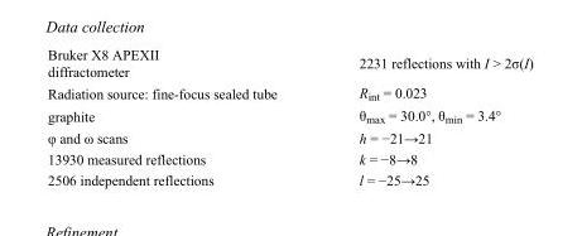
<table><tbody><tr><td>Bruker X8 APEXII diffractometer</td><td>2231 reflections with I &gt; 2σ(I)</td></tr><tr><td>Radiation source: fine-focus sealed tube</td><td>R<sub>int</sub> = 0.023</td></tr><tr><td>graphite</td><td>θ<sub>max</sub> = 30.0°, θ<sub>min</sub> = 3.4°</td></tr><tr><td>φ and ω scans</td><td>h = −21→21</td></tr><tr><td>13930 measured reflections</td><td>k = −8→8</td></tr><tr><td>2506 independent reflections</td><td>l = −25→25</td></tr></tbody></table>